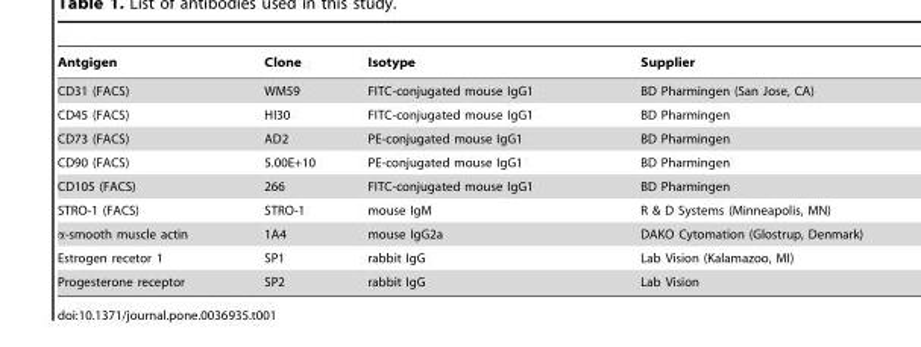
<table><thead><tr><td>Antgigen</td><td>Clone</td><td>Isotype</td><td>Supplier</td></tr></thead><tbody><tr><td>CD31 (FACS)</td><td>WM59</td><td>FITC-conjugated mouse IgG1</td><td>BD Pharmingen (San Jose, CA)</td></tr><tr><td>CD45 (FACS)</td><td>HI30</td><td>FITC-conjugated mouse IgG1</td><td>BD Pharmingen</td></tr><tr><td>CD73 (FACS)</td><td>AD2</td><td>PE-conjugated mouse IgG1</td><td>BD Pharmingen</td></tr><tr><td>CD90 (FACS)</td><td>5.00E+10</td><td>PE-conjugated mouse IgG1</td><td>BD Pharmingen</td></tr><tr><td>CD105 (FACS)</td><td>266</td><td>FITC-conjugated mouse IgG1</td><td>BD Pharmingen</td></tr><tr><td>STRO-1 (FACS)</td><td>STRO-1</td><td>mouse IgM</td><td>R &amp; D Systems (Minneapolis, MN)</td></tr><tr><td>α-smooth muscle actin</td><td>1A4</td><td>mouse IgG2a</td><td>DAKO Cytomation (Glostrup, Denmark)</td></tr><tr><td>Estrogen recetor 1</td><td>SP1</td><td>rabbit IgG</td><td>Lab Vision (Kalamazoo, MI)</td></tr><tr><td>Progesterone receptor</td><td>SP2</td><td>rabbit IgG</td><td>Lab Vision</td></tr></tbody></table>